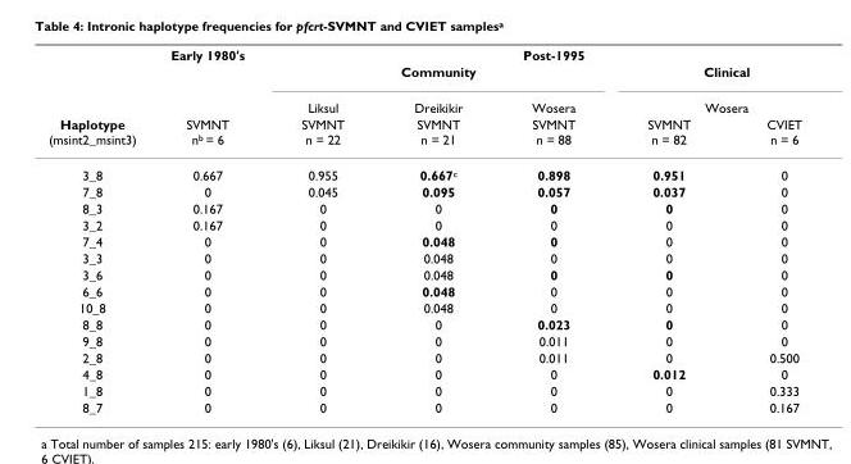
<table><thead><tr><td rowspan="4">Haplotype (msint2_msint3)</td><td rowspan="4">Early 1980&#x27;s SVMNT n<sup>b</sup> = 6</td><td colspan="5">Post-1995</td></tr><tr><td colspan="3">Community</td><td rowspan="2" colspan="2">Clinical Wosera</td></tr><tr><td rowspan="2">Liksul SVMNT n = 22</td><td rowspan="2">Dreikikir SVMNT n = 21</td><td rowspan="2">Wosera SVMNT n = 88</td></tr><tr><td>SVMNT n = 82</td><td>CVIET n = 6</td></tr></thead><tbody><tr><td>3_8</td><td>0.667</td><td>0.955</td><td>0.667<sup>c</sup></td><td>0.898</td><td>0.951</td><td>0</td></tr><tr><td>7_8</td><td>0</td><td>0.045</td><td>0.095</td><td>0.057</td><td>0.037</td><td>0</td></tr><tr><td>8_3</td><td>0.167</td><td>0</td><td>0</td><td>0</td><td>0</td><td>0</td></tr><tr><td>3_2</td><td>0.167</td><td>0</td><td>0</td><td>0</td><td>0</td><td>0</td></tr><tr><td>7_4</td><td>0</td><td>0</td><td>0.048</td><td>0</td><td>0</td><td>0</td></tr><tr><td>3_3</td><td>0</td><td>0</td><td>0.048</td><td>0</td><td>0</td><td>0</td></tr><tr><td>3_6</td><td>0</td><td>0</td><td>0.048</td><td>0</td><td>0</td><td>0</td></tr><tr><td>6_6</td><td>0</td><td>0</td><td>0.048</td><td>0</td><td>0</td><td>0</td></tr><tr><td>10_8</td><td>0</td><td>0</td><td>0.048</td><td>0</td><td>0</td><td>0</td></tr><tr><td>8_8</td><td>0</td><td>0</td><td>0</td><td>0.023</td><td>0</td><td>0</td></tr><tr><td>9_8</td><td>0</td><td>0</td><td>0</td><td>0.011</td><td>0</td><td>0</td></tr><tr><td>2_8</td><td>0</td><td>0</td><td>0</td><td>0.011</td><td>0</td><td>0.500</td></tr><tr><td>4_8</td><td>0</td><td>0</td><td>0</td><td>0</td><td>0.012</td><td>0</td></tr><tr><td>1_8</td><td>0</td><td>0</td><td>0</td><td>0</td><td>0</td><td>0.333</td></tr><tr><td>8_7</td><td>0</td><td>0</td><td>0</td><td>0</td><td>0</td><td>0.167</td></tr></tbody></table>